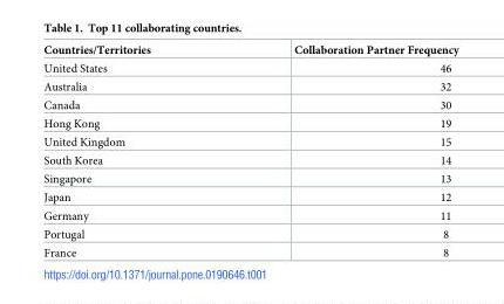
<table><thead><tr><td>Countries/Territories</td><td>Collaboration Partner Frequency</td></tr></thead><tbody><tr><td>United States</td><td>46</td></tr><tr><td>Australia</td><td>32</td></tr><tr><td>Canada</td><td>30</td></tr><tr><td>Hong Kong</td><td>19</td></tr><tr><td>United Kingdom</td><td>15</td></tr><tr><td>South Korea</td><td>14</td></tr><tr><td>Singapore</td><td>13</td></tr><tr><td>Japan</td><td>12</td></tr><tr><td>Germany</td><td>11</td></tr><tr><td>Portugal</td><td>8</td></tr><tr><td>France</td><td>8</td></tr></tbody></table>